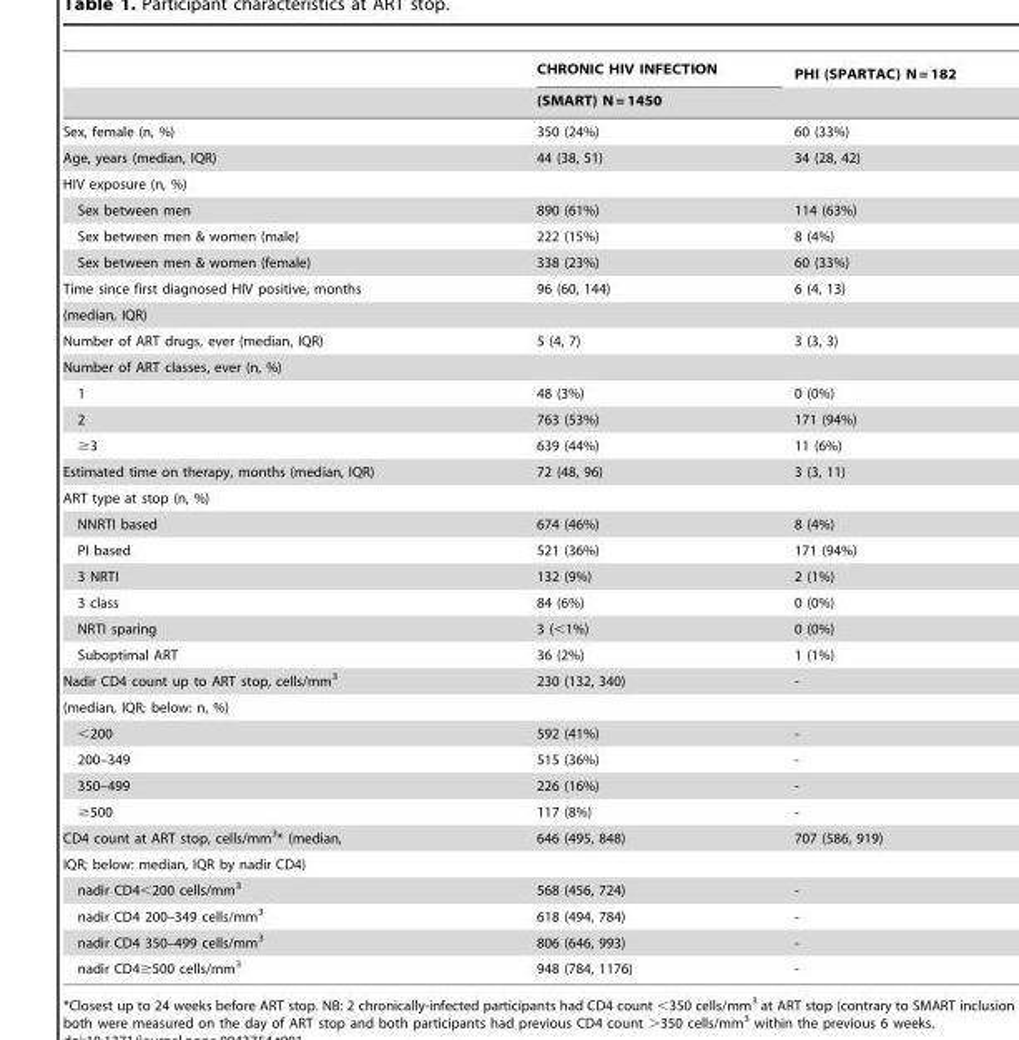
<table><thead><tr><td rowspan="2"></td><td rowspan="2">CHRONIC HIV INFECTION (SMART) N = 1450</td><td rowspan="2">PHI (SPARTAC) N = 182</td></tr><tr></tr></thead><tbody><tr><td>Sex, female (n, %)</td><td>350 (24%)</td><td>60 (33%)</td></tr><tr><td>Age, years (median, IQR)</td><td>44 (38, 51)</td><td>34 (28, 42)</td></tr><tr><td colspan="3">HIV exposure (n, %)</td></tr><tr><td>Sex between men</td><td>890 (61%)</td><td>114 (63%)</td></tr><tr><td>Sex between men &amp; women (male)</td><td>222 (15%)</td><td>8 (4%)</td></tr><tr><td>Sex between men &amp; women (female)</td><td>338 (23%)</td><td>60 (33%)</td></tr><tr><td>Time since first diagnosed HIV positive, months</td><td>96 (60, 144)</td><td>6 (4, 13)</td></tr><tr><td colspan="3">(median, IQR)</td></tr><tr><td>Number of ART drugs, ever (median, IQR)</td><td>5 (4, 7)</td><td>3 (3, 3)</td></tr><tr><td colspan="3">Number of ART classes, ever (n, %)</td></tr><tr><td>1</td><td>48 (3%)</td><td>0 (0%)</td></tr><tr><td>2</td><td>763 (53%)</td><td>171 (94%)</td></tr><tr><td>≥3</td><td>639 (44%)</td><td>11 (6%)</td></tr><tr><td>Estimated time on therapy, months (median, IQR)</td><td>72 (48, 96)</td><td>3 (3, 11)</td></tr><tr><td colspan="3">ART type at stop (n, %)</td></tr><tr><td>NNRTI based</td><td>674 (46%)</td><td>8 (4%)</td></tr><tr><td>PI based</td><td>521 (36%)</td><td>171 (94%)</td></tr><tr><td>3 NRTI</td><td>132 (9%)</td><td>2 (1%)</td></tr><tr><td>3 class</td><td>84 (6%)</td><td>0 (0%)</td></tr><tr><td>NRTI sparing</td><td>3 (&lt;1%)</td><td>0 (0%)</td></tr><tr><td>Suboptimal ART</td><td>36 (2%)</td><td>1 (1%)</td></tr><tr><td>Nadir CD4 count up to ART stop, cells/mm<sup>3</sup></td><td>230 (132, 340)</td><td>-</td></tr><tr><td colspan="3">(median, IQR; below: n, %)</td></tr><tr><td>&lt;200</td><td>592 (41%)</td><td>-</td></tr><tr><td>200–349</td><td>515 (36%)</td><td>-</td></tr><tr><td>350–499</td><td>226 (16%)</td><td>-</td></tr><tr><td>≥500</td><td>117 (8%)</td><td>-</td></tr><tr><td>CD4 count at ART stop, cells/mm<sup>3</sup>* (median,</td><td>646 (495, 848)</td><td>707 (586, 919)</td></tr><tr><td colspan="3">IQR; below: median, IQR by nadir CD4)</td></tr><tr><td>nadir CD4&lt;200 cells/mm<sup>3</sup></td><td>568 (456, 724)</td><td>-</td></tr><tr><td>nadir CD4 200–349 cells/mm<sup>3</sup></td><td>618 (494, 784)</td><td>-</td></tr><tr><td>nadir CD4 350–499 cells/mm<sup>3</sup></td><td>806 (646, 993)</td><td>-</td></tr><tr><td>nadir CD4≥500 cells/mm<sup>3</sup></td><td>948 (784, 1176)</td><td>-</td></tr></tbody></table>